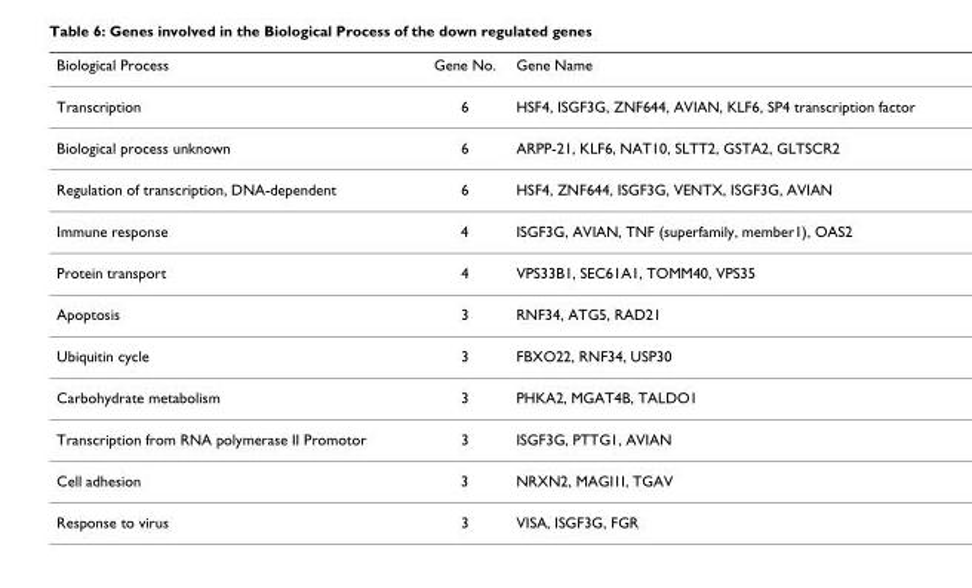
<table><thead><tr><td>Biological Process</td><td>Gene No.</td><td>Gene Name</td></tr></thead><tbody><tr><td>Transcription</td><td>6</td><td>HSF4, ISGF3G, ZNF644, AVIAN, KLF6, SP4 transcription factor</td></tr><tr><td>Biological process unknown</td><td>6</td><td>ARPP-21, KLF6, NAT10, SLTT2, GSTA2, GLTSCR2</td></tr><tr><td>Regulation of transcription, DNA-dependent</td><td>6</td><td>HSF4, ZNF644, ISGF3G, VENTX, ISGF3G, AVIAN</td></tr><tr><td>Immune response</td><td>4</td><td>ISGF3G, AVIAN, TNF (superfamily, member1), OAS2</td></tr><tr><td>Protein transport</td><td>4</td><td>VPS33B1, SEC61A1, TOMM40, VPS35</td></tr><tr><td>Apoptosis</td><td>3</td><td>RNF34, ATG5, RAD21</td></tr><tr><td>Ubiquitin cycle</td><td>3</td><td>FBXO22, RNF34, USP30</td></tr><tr><td>Carbohydrate metabolism</td><td>3</td><td>PHKA2, MGAT4B, TALDO1</td></tr><tr><td>Transcription from RNA polymerase II Promotor</td><td>3</td><td>ISGF3G, PTTG1, AVIAN</td></tr><tr><td>Cell adhesion</td><td>3</td><td>NRXN2, MAGI1I, TGAV</td></tr><tr><td>Response to virus</td><td>3</td><td>VISA, ISGF3G, FGR</td></tr></tbody></table>